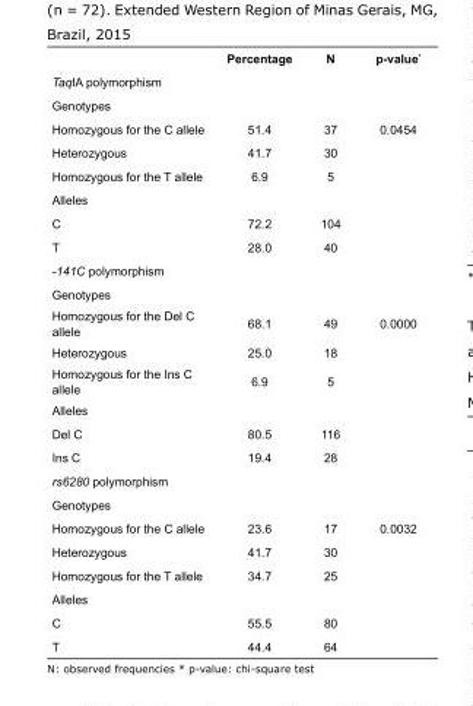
<table><thead><tr><td></td><td>Percentage</td><td>N</td><td>p-value*</td></tr></thead><tbody><tr><td colspan="4">TaqIA polymorphism</td></tr><tr><td colspan="4">Genotypes</td></tr><tr><td>Homozygous for the C allele</td><td>51.4</td><td>37</td><td>0.0454</td></tr><tr><td>Heterozygous</td><td>41.7</td><td>30</td><td></td></tr><tr><td>Homozygous for the T allele</td><td>6.9</td><td>5</td><td></td></tr><tr><td colspan="4">Alleles</td></tr><tr><td>C</td><td>72.2</td><td>104</td><td></td></tr><tr><td>T</td><td>28.0</td><td>40</td><td></td></tr><tr><td colspan="4">-141C polymorphism</td></tr><tr><td colspan="4">Genotypes</td></tr><tr><td>Homozygous for the Del C allele</td><td>68.1</td><td>49</td><td>0.0000</td></tr><tr><td>Heterozygous</td><td>25.0</td><td>18</td><td></td></tr><tr><td>Homozygous for the Ins C allele</td><td>6.9</td><td>5</td><td></td></tr><tr><td colspan="4">Alleles</td></tr><tr><td>Del C</td><td>80.5</td><td>116</td><td></td></tr><tr><td>Ins C</td><td>19.4</td><td>28</td><td></td></tr><tr><td colspan="4">rs6280 polymorphism</td></tr><tr><td colspan="4">Genotypes</td></tr><tr><td>Homozygous for the C allele</td><td>23.6</td><td>17</td><td>0.0032</td></tr><tr><td>Heterozygous</td><td>41.7</td><td>30</td><td></td></tr><tr><td>Homozygous for the T allele</td><td>34.7</td><td>25</td><td></td></tr><tr><td colspan="4">Alleles</td></tr><tr><td>C</td><td>55.5</td><td>80</td><td></td></tr><tr><td>T</td><td>44.4</td><td>64</td><td></td></tr></tbody></table>